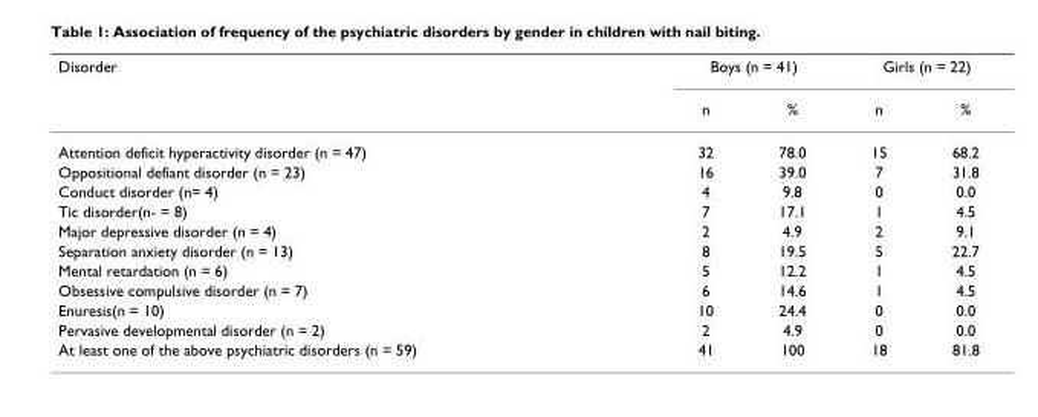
<table><thead><tr><td rowspan="2">Disorder</td><td colspan="2">Boys (n = 41)</td><td colspan="2">Girls (n = 22)</td></tr><tr><td>n</td><td>%</td><td>n</td><td>%</td></tr></thead><tbody><tr><td>Attention deficit hyperactivity disorder (n = 47)</td><td>32</td><td>78.0</td><td>15</td><td>68.2</td></tr><tr><td>Oppositional defiant disorder (n = 23)</td><td>16</td><td>39.0</td><td>7</td><td>31.8</td></tr><tr><td>Conduct disorder (n= 4)</td><td>4</td><td>9.8</td><td>0</td><td>0.0</td></tr><tr><td>Tic disorder(n- = 8)</td><td>7</td><td>17.1</td><td>1</td><td>4.5</td></tr><tr><td>Major depressive disorder (n = 4)</td><td>2</td><td>4.9</td><td>2</td><td>9.1</td></tr><tr><td>Separation anxiety disorder (n = 13)</td><td>8</td><td>19.5</td><td>5</td><td>22.7</td></tr><tr><td>Mental retardation (n = 6)</td><td>5</td><td>12.2</td><td>1</td><td>4.5</td></tr><tr><td>Obsessive compulsive disorder (n = 7)</td><td>6</td><td>14.6</td><td>1</td><td>4.5</td></tr><tr><td>Enuresis(n = 10)</td><td>10</td><td>24.4</td><td>0</td><td>0.0</td></tr><tr><td>Pervasive developmental disorder (n = 2)</td><td>2</td><td>4.9</td><td>0</td><td>0.0</td></tr><tr><td>At least one of the above psychiatric disorders (n = 59)</td><td>41</td><td>100</td><td>18</td><td>81.8</td></tr></tbody></table>